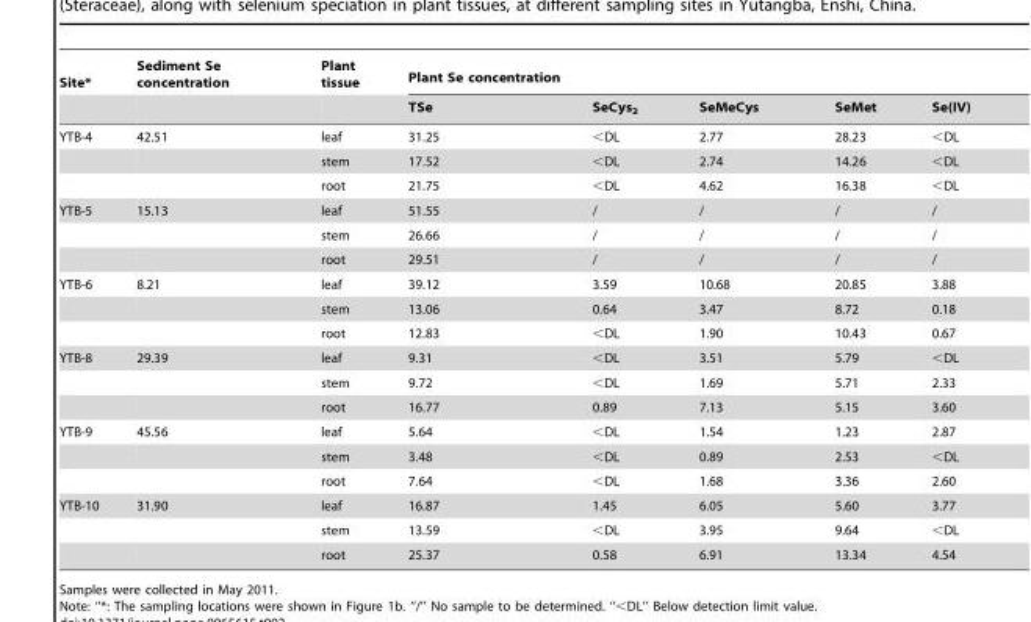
<table><thead><tr><td rowspan="2">Site*</td><td rowspan="2">Sediment Se concentration</td><td rowspan="2">Plant tissue</td><td colspan="5">Plant Se concentration</td></tr><tr><td>TSe</td><td>SeCys<sub>2</sub></td><td>SeMeCys</td><td>SeMet</td><td>Se(IV)</td></tr></thead><tbody><tr><td rowspan="3">YTB-4</td><td>42.51</td><td>leaf</td><td>31.25</td><td>&lt;DL</td><td>2.77</td><td>28.23</td><td>&lt;DL</td></tr><tr><td></td><td>stem</td><td>17.52</td><td>&lt;DL</td><td>2.74</td><td>14.26</td><td>&lt;DL</td></tr><tr><td></td><td>root</td><td>21.75</td><td>&lt;DL</td><td>4.62</td><td>16.38</td><td>&lt;DL</td></tr><tr><td rowspan="3">YTB-5</td><td>15.13</td><td>leaf</td><td>51.55</td><td>/</td><td>/</td><td>/</td><td>/</td></tr><tr><td></td><td>stem</td><td>26.66</td><td>/</td><td>/</td><td>/</td><td>/</td></tr><tr><td></td><td>root</td><td>29.51</td><td>/</td><td>/</td><td>/</td><td>/</td></tr><tr><td rowspan="3">YTB-6</td><td>8.21</td><td>leaf</td><td>39.12</td><td>3.59</td><td>10.68</td><td>20.85</td><td>3.88</td></tr><tr><td></td><td>stem</td><td>13.06</td><td>0.64</td><td>3.47</td><td>8.72</td><td>0.18</td></tr><tr><td></td><td>root</td><td>12.83</td><td>&lt;DL</td><td>1.90</td><td>10.43</td><td>0.67</td></tr><tr><td rowspan="3">YTB-8</td><td>29.39</td><td>leaf</td><td>9.31</td><td>&lt;DL</td><td>3.51</td><td>5.79</td><td>&lt;DL</td></tr><tr><td></td><td>stem</td><td>9.72</td><td>&lt;DL</td><td>1.69</td><td>5.71</td><td>2.33</td></tr><tr><td></td><td>root</td><td>16.77</td><td>0.89</td><td>7.13</td><td>5.15</td><td>3.60</td></tr><tr><td rowspan="3">YTB-9</td><td>45.56</td><td>leaf</td><td>5.64</td><td>&lt;DL</td><td>1.54</td><td>1.23</td><td>2.87</td></tr><tr><td></td><td>stem</td><td>3.48</td><td>&lt;DL</td><td>0.89</td><td>2.53</td><td>&lt;DL</td></tr><tr><td></td><td>root</td><td>7.64</td><td>&lt;DL</td><td>1.68</td><td>3.36</td><td>2.60</td></tr><tr><td rowspan="3">YTB-10</td><td>31.90</td><td>leaf</td><td>16.87</td><td>1.45</td><td>6.05</td><td>5.60</td><td>3.77</td></tr><tr><td></td><td>stem</td><td>13.59</td><td>&lt;DL</td><td>3.95</td><td>9.64</td><td>&lt;DL</td></tr><tr><td></td><td>root</td><td>25.37</td><td>0.58</td><td>6.91</td><td>13.34</td><td>4.54</td></tr></tbody></table>